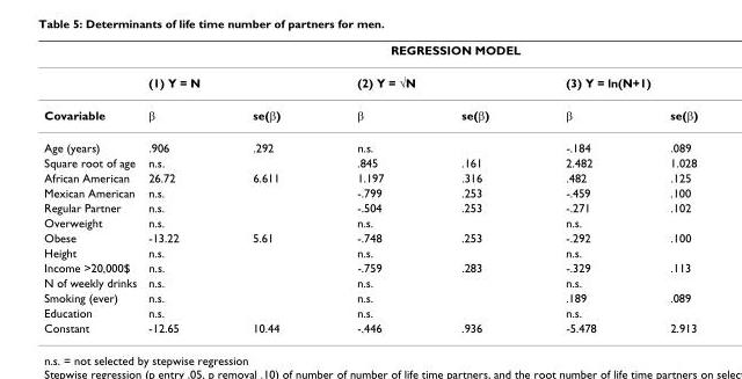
<table><thead><tr><td rowspan="3">Covariable</td><td colspan="6">REGRESSION MODEL</td></tr><tr><td colspan="2">(1) Y = N</td><td colspan="2">(2) Y = √N</td><td colspan="2">(3) Y = ln(N+1)</td></tr><tr><td>β</td><td>se(β)</td><td>β</td><td>se(β)</td><td>β</td><td>se(β)</td></tr></thead><tbody><tr><td>Age (years)</td><td>.906</td><td>.292</td><td>n.s.</td><td></td><td>-.184</td><td>.089</td></tr><tr><td>Square root of age</td><td>n.s.</td><td></td><td>.845</td><td>.161</td><td>2.482</td><td>1.028</td></tr><tr><td>African American</td><td>26.72</td><td>6.611</td><td>1.197</td><td>.316</td><td>.482</td><td>.125</td></tr><tr><td>Mexican American</td><td>n.s.</td><td></td><td>-.799</td><td>.253</td><td>-.459</td><td>.100</td></tr><tr><td>Regular Partner</td><td>n.s.</td><td></td><td>-.504</td><td>.253</td><td>-.271</td><td>.102</td></tr><tr><td>Overweight</td><td>n.s.</td><td></td><td>n.s.</td><td></td><td>n.s.</td><td></td></tr><tr><td>Obese</td><td>-13.22</td><td>5.61</td><td>-.748</td><td>.253</td><td>-.292</td><td>.100</td></tr><tr><td>Height</td><td>n.s.</td><td></td><td>n.s.</td><td></td><td>n.s.</td><td></td></tr><tr><td>Income &gt;20,000$</td><td>n.s.</td><td></td><td>-.759</td><td>.283</td><td>-.329</td><td>.113</td></tr><tr><td>N of weekly drinks</td><td>n.s.</td><td></td><td>n.s.</td><td></td><td>n.s.</td><td></td></tr><tr><td>Smoking (ever)</td><td>n.s.</td><td></td><td>n.s.</td><td></td><td>.189</td><td>.089</td></tr><tr><td>Education</td><td>n.s.</td><td></td><td>n.s.</td><td></td><td>n.s.</td><td></td></tr><tr><td>Constant</td><td>-12.65</td><td>10.44</td><td>-.446</td><td>.936</td><td>-5.478</td><td>2.913</td></tr></tbody></table>